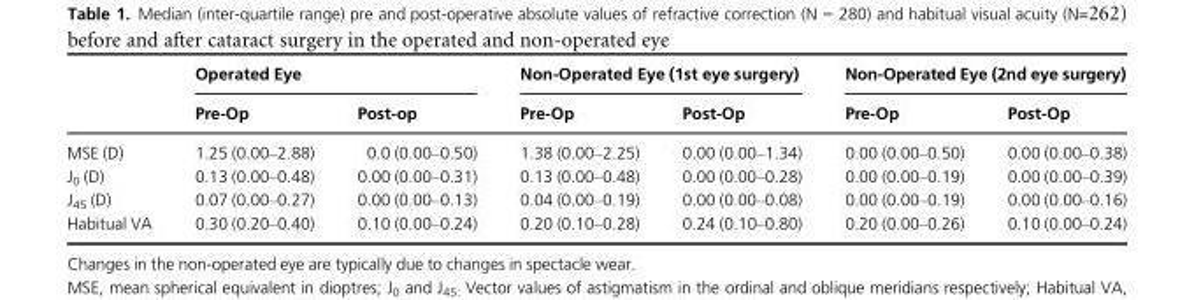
<table><thead><tr><td rowspan="2"></td><td colspan="2">Operated Eye</td><td colspan="2">Non-Operated Eye (1st eye surgery)</td><td colspan="2">Non-Operated Eye (2nd eye surgery)</td></tr><tr><td>Pre-Op</td><td>Post-op</td><td>Pre-Op</td><td>Post-Op</td><td>Pre-Op</td><td>Post-Op</td></tr></thead><tbody><tr><td>MSE (D)</td><td>1.25 (0.00–2.88)</td><td>0.0 (0.00–0.50)</td><td>1.38 (0.00–2.25)</td><td>0.00 (0.00–1.34)</td><td>0.00 (0.00–0.50)</td><td>0.00 (0.00–0.38)</td></tr><tr><td>J<sub>0</sub> (D)</td><td>0.13 (0.00–0.48)</td><td>0.00 (0.00–0.31)</td><td>0.13 (0.00–0.48)</td><td>0.00 (0.00–0.28)</td><td>0.00 (0.00–0.19)</td><td>0.00 (0.00–0.39)</td></tr><tr><td>J<sub>45</sub> (D)</td><td>0.07 (0.00–0.27)</td><td>0.00 (0.00–0.13)</td><td>0.04 (0.00–0.19)</td><td>0.00 (0.00–0.08)</td><td>0.00 (0.00–0.19)</td><td>0.00 (0.00–0.16)</td></tr><tr><td>Habitual VA</td><td>0.30 (0.20–0.40)</td><td>0.10 (0.00–0.24)</td><td>0.20 (0.10–0.28)</td><td>0.24 (0.10–0.80)</td><td>0.20 (0.00–0.26)</td><td>0.10 (0.00–0.24)</td></tr></tbody></table>